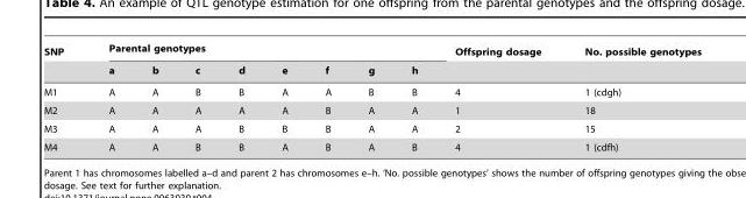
<table><thead><tr><td rowspan="2">SNP</td><td colspan="8">Parental genotypes</td><td rowspan="2">Offspring dosage</td><td rowspan="2">No. possible genotypes</td></tr><tr><td>a</td><td>b</td><td>c</td><td>d</td><td>e</td><td>f</td><td>g</td><td>h</td></tr></thead><tbody><tr><td>M1</td><td>A</td><td>A</td><td>B</td><td>B</td><td>A</td><td>A</td><td>B</td><td>B</td><td>4</td><td>1 (cdgh)</td></tr><tr><td>M2</td><td>A</td><td>A</td><td>A</td><td>A</td><td>A</td><td>B</td><td>A</td><td>A</td><td>1</td><td>18</td></tr><tr><td>M3</td><td>A</td><td>A</td><td>A</td><td>B</td><td>B</td><td>B</td><td>A</td><td>A</td><td>2</td><td>15</td></tr><tr><td>M4</td><td>A</td><td>A</td><td>B</td><td>B</td><td>A</td><td>B</td><td>A</td><td>B</td><td>4</td><td>1 (cdfh)</td></tr></tbody></table>